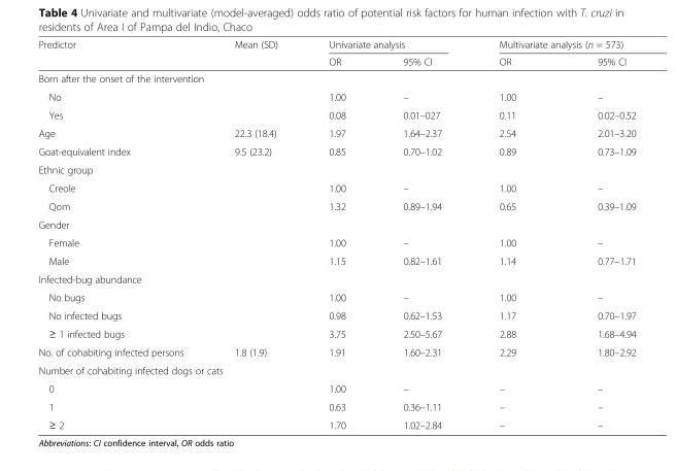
<table><thead><tr><td rowspan="2">Predictor</td><td rowspan="2">Mean (SD)</td><td colspan="2">Univariate analysis</td><td colspan="2">Multivariate analysis (n = 573)</td></tr><tr><td>OR</td><td>95% CI</td><td>OR</td><td>95% CI</td></tr></thead><tbody><tr><td colspan="6">Born after the onset of the intervention</td></tr><tr><td>No</td><td></td><td>1.00</td><td>–</td><td>1.00</td><td>–</td></tr><tr><td>Yes</td><td></td><td>0.08</td><td>0.01–027</td><td>0.11</td><td>0.02–0.52</td></tr><tr><td>Age</td><td>22.3 (18.4)</td><td>1.97</td><td>1.64–2.37</td><td>2.54</td><td>2.01–3.20</td></tr><tr><td>Goat-equivalent index</td><td>9.5 (23.2)</td><td>0.85</td><td>0.70–1.02</td><td>0.89</td><td>0.73–1.09</td></tr><tr><td colspan="6">Ethnic group</td></tr><tr><td>Creole</td><td></td><td>1.00</td><td>–</td><td>1.00</td><td>–</td></tr><tr><td>Qom</td><td></td><td>1.32</td><td>0.89–1.94</td><td>0.65</td><td>0.39–1.09</td></tr><tr><td colspan="6">Gender</td></tr><tr><td>Female</td><td></td><td>1.00</td><td>–</td><td>1.00</td><td>–</td></tr><tr><td>Male</td><td></td><td>1.15</td><td>0.82–1.61</td><td>1.14</td><td>0.77–1.71</td></tr><tr><td colspan="6">Infected-bug abundance</td></tr><tr><td>No bugs</td><td></td><td>1.00</td><td>–</td><td>1.00</td><td>–</td></tr><tr><td>No infected bugs</td><td></td><td>0.98</td><td>0.62–1.53</td><td>1.17</td><td>0.70–1.97</td></tr><tr><td>≥ 1 infected bugs</td><td></td><td>3.75</td><td>2.50–5.67</td><td>2.88</td><td>1.68–4.94</td></tr><tr><td>No. of cohabiting infected persons</td><td>1.8 (1.9)</td><td>1.91</td><td>1.60–2.31</td><td>2.29</td><td>1.80–2.92</td></tr><tr><td colspan="6">Number of cohabiting infected dogs or cats</td></tr><tr><td>0</td><td></td><td>1.00</td><td>–</td><td>–</td><td>–</td></tr><tr><td>1</td><td></td><td>0.63</td><td>0.36–1.11</td><td>–</td><td>–</td></tr><tr><td>≥ 2</td><td></td><td>1.70</td><td>1.02–2.84</td><td>–</td><td>–</td></tr></tbody></table>